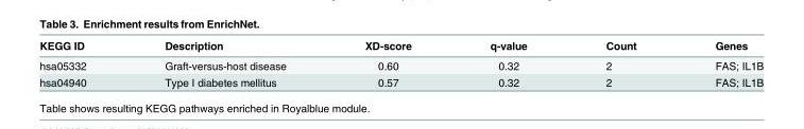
<table><thead><tr><td>KEGG ID</td><td>Description</td><td>XD-score</td><td>q-value</td><td>Count</td><td>Genes</td></tr></thead><tbody><tr><td>hsa05332</td><td>Graft-versus-host disease</td><td>0.60</td><td>0.32</td><td>2</td><td>FAS; IL1B</td></tr><tr><td>hsa04940</td><td>Type I diabetes mellitus</td><td>0.57</td><td>0.32</td><td>2</td><td>FAS; IL1B</td></tr></tbody></table>